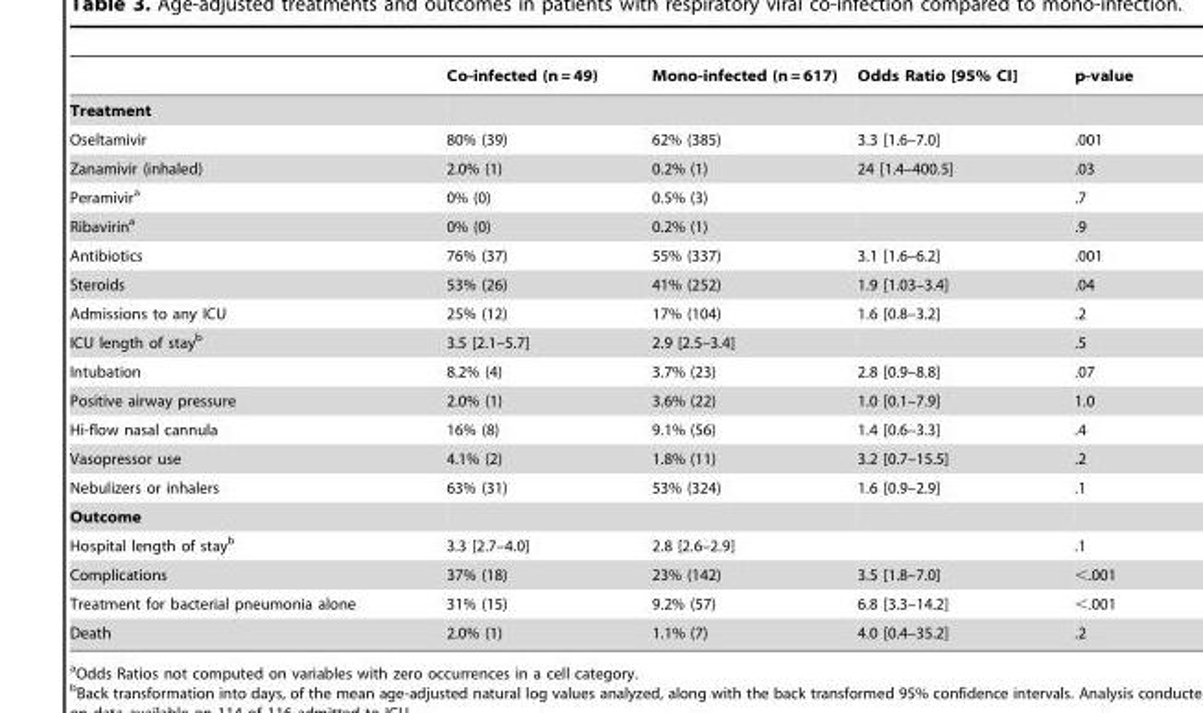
<table><thead><tr><td></td><td>Co-infected (n = 49)</td><td>Mono-infected (n = 617)</td><td>Odds Ratio [95% CI]</td><td>p-value</td></tr></thead><tbody><tr><td colspan="5">Treatment</td></tr><tr><td>Oseltamivir</td><td>80% (39)</td><td>62% (385)</td><td>3.3 [1.6–7.0]</td><td>.001</td></tr><tr><td>Zanamivir (inhaled)</td><td>2.0% (1)</td><td>0.2% (1)</td><td>24 [1.4–400.5]</td><td>.03</td></tr><tr><td>Peramivir<sup>a</sup></td><td>0% (0)</td><td>0.5% (3)</td><td></td><td>.7</td></tr><tr><td>Ribavirin<sup>a</sup></td><td>0% (0)</td><td>0.2% (1)</td><td></td><td>.9</td></tr><tr><td>Antibiotics</td><td>76% (37)</td><td>55% (337)</td><td>3.1 [1.6–6.2]</td><td>.001</td></tr><tr><td>Steroids</td><td>53% (26)</td><td>41% (252)</td><td>1.9 [1.03–3.4]</td><td>.04</td></tr><tr><td>Admissions to any ICU</td><td>25% (12)</td><td>17% (104)</td><td>1.6 [0.8–3.2]</td><td>.2</td></tr><tr><td>ICU length of stay<sup>b</sup></td><td>3.5 [2.1–5.7]</td><td>2.9 [2.5–3.4]</td><td></td><td>.5</td></tr><tr><td>Intubation</td><td>8.2% (4)</td><td>3.7% (23)</td><td>2.8 [0.9–8.8]</td><td>.07</td></tr><tr><td>Positive airway pressure</td><td>2.0% (1)</td><td>3.6% (22)</td><td>1.0 [0.1–7.9]</td><td>1.0</td></tr><tr><td>Hi-flow nasal cannula</td><td>16% (8)</td><td>9.1% (56)</td><td>1.4 [0.6–3.3]</td><td>.4</td></tr><tr><td>Vasopressor use</td><td>4.1% (2)</td><td>1.8% (11)</td><td>3.2 [0.7–15.5]</td><td>.2</td></tr><tr><td>Nebulizers or inhalers</td><td>63% (31)</td><td>53% (324)</td><td>1.6 [0.9–2.9]</td><td>.1</td></tr><tr><td colspan="5">Outcome</td></tr><tr><td>Hospital length of stay<sup>b</sup></td><td>3.3 [2.7–4.0]</td><td>2.8 [2.6–2.9]</td><td></td><td>.1</td></tr><tr><td>Complications</td><td>37% (18)</td><td>23% (142)</td><td>3.5 [1.8–7.0]</td><td>&lt;.001</td></tr><tr><td>Treatment for bacterial pneumonia alone</td><td>31% (15)</td><td>9.2% (57)</td><td>6.8 [3.3–14.2]</td><td>&lt;.001</td></tr><tr><td>Death</td><td>2.0% (1)</td><td>1.1% (7)</td><td>4.0 [0.4–35.2]</td><td>.2</td></tr></tbody></table>